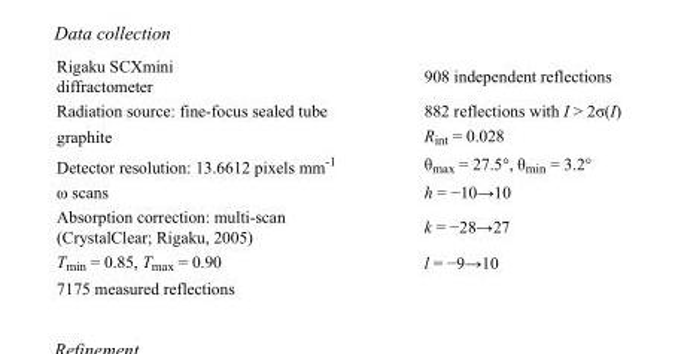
<table><tbody><tr><td>Rigaku SCXmini diffractometer</td><td>908 independent reflections</td></tr><tr><td>Radiation source: fine-focus sealed tube</td><td>882 reflections with I &gt; 2σ(I)</td></tr><tr><td>graphite</td><td>R<sub>int</sub> = 0.028</td></tr><tr><td>Detector resolution: 13.6612 pixels mm<sup>-1</sup></td><td>θ<sub>max</sub> = 27.5°, θ<sub>min</sub> = 3.2°</td></tr><tr><td>ω scans</td><td>h = −10→10</td></tr><tr><td>Absorption correction: multi-scan (CrystalClear; Rigaku, 2005)</td><td>k = −28→27</td></tr><tr><td>T<sub>min</sub> = 0.85, T<sub>max</sub> = 0.90</td><td>l = −9→10</td></tr><tr><td>7175 measured reflections</td><td></td></tr></tbody></table>